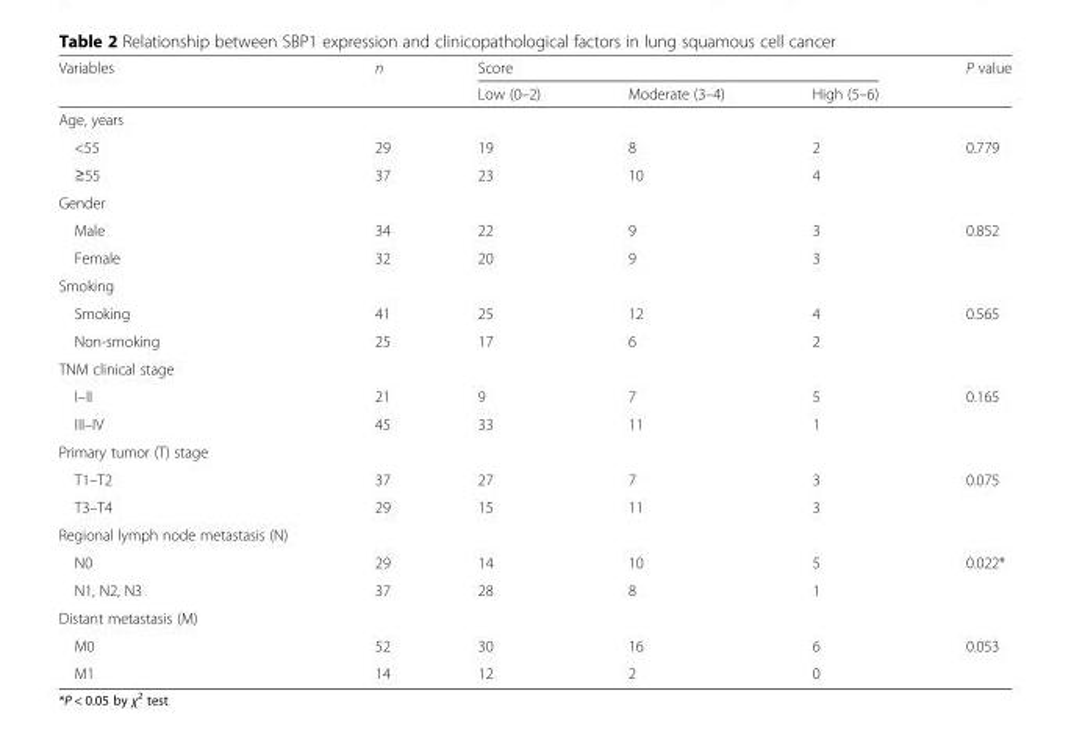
<table><thead><tr><td rowspan="2">Variables</td><td rowspan="2">n</td><td colspan="3">Score</td><td rowspan="2">P value</td></tr><tr><td>Low (0–2)</td><td>Moderate (3–4)</td><td>High (5–6)</td></tr></thead><tbody><tr><td colspan="6">Age, years</td></tr><tr><td>&lt;55</td><td>29</td><td>19</td><td>8</td><td>2</td><td rowspan="2">0.779</td></tr><tr><td>≥55</td><td>37</td><td>23</td><td>10</td><td>4</td></tr><tr><td colspan="6">Gender</td></tr><tr><td>Male</td><td>34</td><td>22</td><td>9</td><td>3</td><td rowspan="2">0.852</td></tr><tr><td>Female</td><td>32</td><td>20</td><td>9</td><td>3</td></tr><tr><td colspan="6">Smoking</td></tr><tr><td>Smoking</td><td>41</td><td>25</td><td>12</td><td>4</td><td rowspan="2">0.565</td></tr><tr><td>Non-smoking</td><td>25</td><td>17</td><td>6</td><td>2</td></tr><tr><td colspan="6">TNM clinical stage</td></tr><tr><td>I–II</td><td>21</td><td>9</td><td>7</td><td>5</td><td rowspan="2">0.165</td></tr><tr><td>III–IV</td><td>45</td><td>33</td><td>11</td><td>1</td></tr><tr><td colspan="6">Primary tumor (T) stage</td></tr><tr><td>T1–T2</td><td>37</td><td>27</td><td>7</td><td>3</td><td rowspan="2">0.075</td></tr><tr><td>T3–T4</td><td>29</td><td>15</td><td>11</td><td>3</td></tr><tr><td colspan="6">Regional lymph node metastasis (N)</td></tr><tr><td>N0</td><td>29</td><td>14</td><td>10</td><td>5</td><td rowspan="2">0.022*</td></tr><tr><td>N1, N2, N3</td><td>37</td><td>28</td><td>8</td><td>1</td></tr><tr><td colspan="6">Distant metastasis (M)</td></tr><tr><td>M0</td><td>52</td><td>30</td><td>16</td><td>6</td><td rowspan="2">0.053</td></tr><tr><td>M1</td><td>14</td><td>12</td><td>2</td><td>0</td></tr></tbody></table>